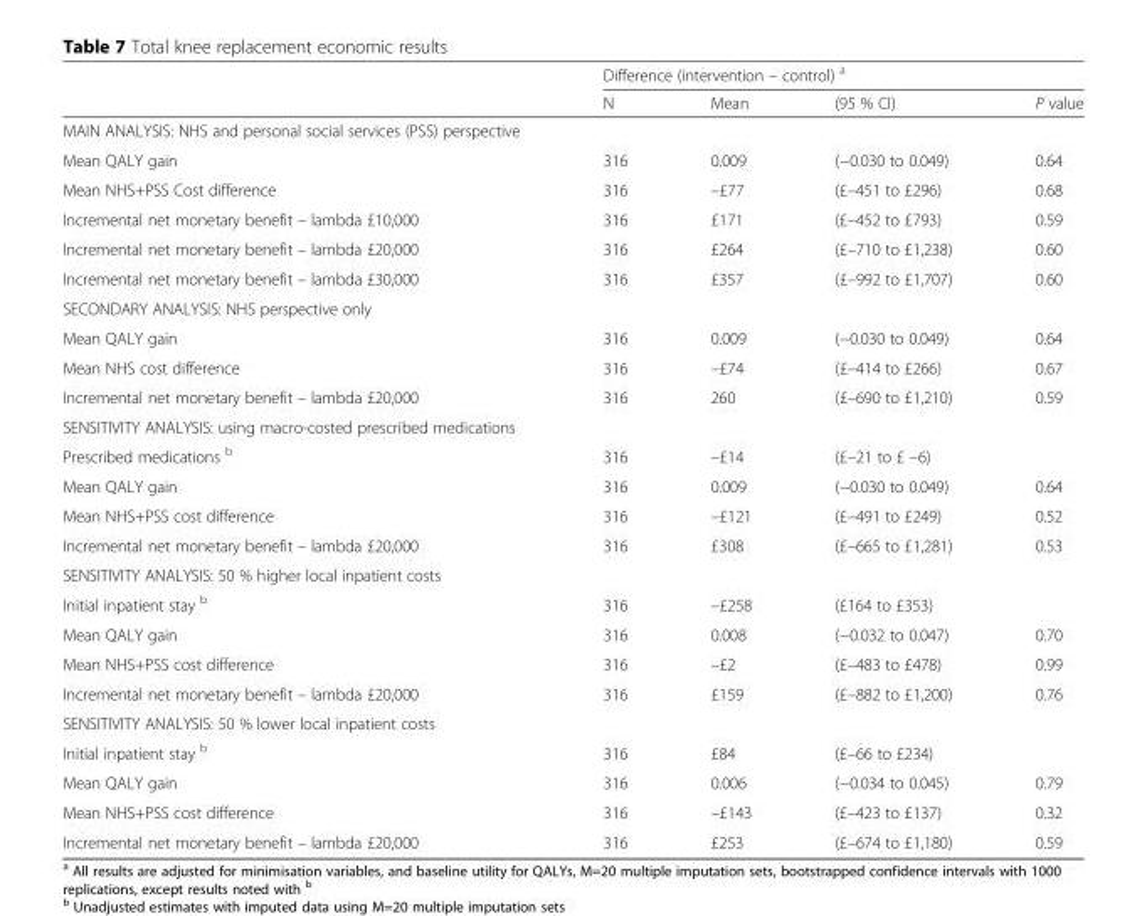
<table><thead><tr><td rowspan="2"></td><td colspan="4">Difference (intervention – control) <sup>a</sup></td></tr><tr><td>N</td><td>Mean</td><td>(95 % CI)</td><td>P value</td></tr></thead><tbody><tr><td colspan="5">MAIN ANALYSIS: NHS and personal social services (PSS) perspective</td></tr><tr><td>Mean QALY gain</td><td>316</td><td>0.009</td><td>(−0.030 to 0.049)</td><td>0.64</td></tr><tr><td>Mean NHS+PSS Cost difference</td><td>316</td><td>–£77</td><td>(£–451 to £296)</td><td>0.68</td></tr><tr><td>Incremental net monetary benefit – lambda £10,000</td><td>316</td><td>£171</td><td>(£–452 to £793)</td><td>0.59</td></tr><tr><td>Incremental net monetary benefit – lambda £20,000</td><td>316</td><td>£264</td><td>(£–710 to £1,238)</td><td>0.60</td></tr><tr><td>Incremental net monetary benefit – lambda £30,000</td><td>316</td><td>£357</td><td>(£–992 to £1,707)</td><td>0.60</td></tr><tr><td colspan="5">SECONDARY ANALYSIS: NHS perspective only</td></tr><tr><td>Mean QALY gain</td><td>316</td><td>0.009</td><td>(−0.030 to 0.049)</td><td>0.64</td></tr><tr><td>Mean NHS cost difference</td><td>316</td><td>–£74</td><td>(£–414 to £266)</td><td>0.67</td></tr><tr><td>Incremental net monetary benefit – lambda £20,000</td><td>316</td><td>260</td><td>(£–690 to £1,210)</td><td>0.59</td></tr><tr><td colspan="5">SENSITIVITY ANALYSIS: using macro-costed prescribed medications</td></tr><tr><td>Prescribed medications <sup>b</sup></td><td>316</td><td>–£14</td><td>(£–21 to £ –6)</td><td></td></tr><tr><td>Mean QALY gain</td><td>316</td><td>0.009</td><td>(−0.030 to 0.049)</td><td>0.64</td></tr><tr><td>Mean NHS+PSS cost difference</td><td>316</td><td>–£121</td><td>(£–491 to £249)</td><td>0.52</td></tr><tr><td>Incremental net monetary benefit – lambda £20,000</td><td>316</td><td>£308</td><td>(£–665 to £1,281)</td><td>0.53</td></tr><tr><td colspan="5">SENSITIVITY ANALYSIS: 50 % higher local inpatient costs</td></tr><tr><td>Initial inpatient stay <sup>b</sup></td><td>316</td><td>–£258</td><td>(£164 to £353)</td><td></td></tr><tr><td>Mean QALY gain</td><td>316</td><td>0.008</td><td>(−0.032 to 0.047)</td><td>0.70</td></tr><tr><td>Mean NHS+PSS cost difference</td><td>316</td><td>–£2</td><td>(£–483 to £478)</td><td>0.99</td></tr><tr><td>Incremental net monetary benefit – lambda £20,000</td><td>316</td><td>£159</td><td>(£–882 to £1,200)</td><td>0.76</td></tr><tr><td colspan="5">SENSITIVITY ANALYSIS: 50 % lower local inpatient costs</td></tr><tr><td>Initial inpatient stay <sup>b</sup></td><td>316</td><td>£84</td><td>(£–66 to £234)</td><td></td></tr><tr><td>Mean QALY gain</td><td>316</td><td>0.006</td><td>(−0.034 to 0.045)</td><td>0.79</td></tr><tr><td>Mean NHS+PSS cost difference</td><td>316</td><td>–£143</td><td>(£–423 to £137)</td><td>0.32</td></tr><tr><td>Incremental net monetary benefit – lambda £20,000</td><td>316</td><td>£253</td><td>(£–674 to £1,180)</td><td>0.59</td></tr></tbody></table>